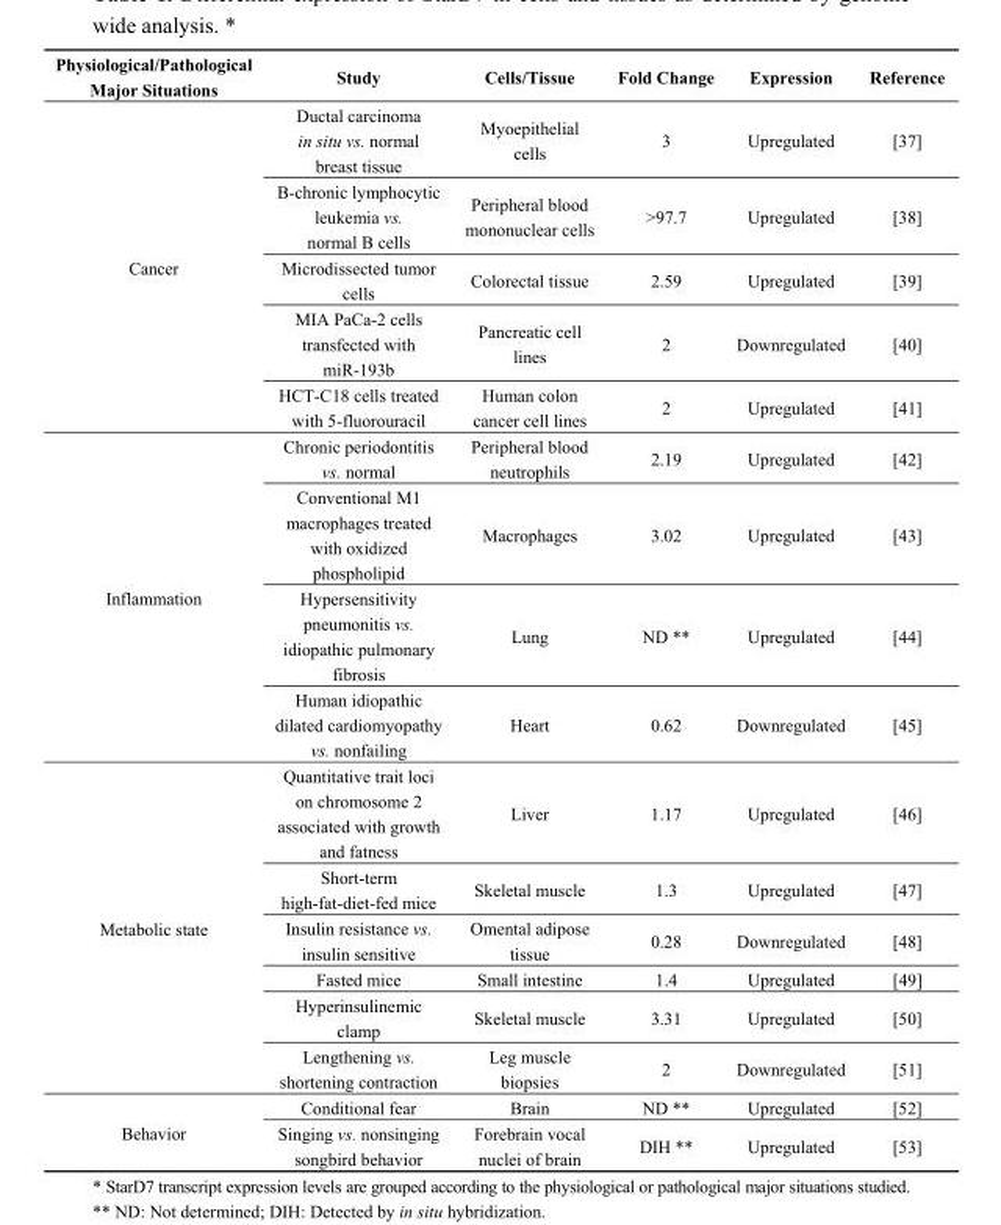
<table><thead><tr><td>Physiological/Pathological Major Situations</td><td>Study</td><td>Cells/Tissue</td><td>Fold Change</td><td>Expression</td><td>Reference</td></tr></thead><tbody><tr><td rowspan="5">Cancer</td><td>Ductal carcinoma in situ vs. normal breast tissue</td><td>Myoepithelial cells</td><td>3</td><td>Upregulated</td><td>[37]</td></tr><tr><td>B-chronic lymphocytic leukemia vs. normal B cells</td><td>Peripheral blood mononuclear cells</td><td>&gt;97.7</td><td>Upregulated</td><td>[38]</td></tr><tr><td>Microdissected tumor cells</td><td>Colorectal tissue</td><td>2.59</td><td>Upregulated</td><td>[39]</td></tr><tr><td>MIA PaCa-2 cells transfected with miR-193b</td><td>Pancreatic cell lines</td><td>2</td><td>Downregulated</td><td>[40]</td></tr><tr><td>HCT-C18 cells treated with 5-fluorouracil</td><td>Human colon cancer cell lines</td><td>2</td><td>Upregulated</td><td>[41]</td></tr><tr><td rowspan="4">Inflammation</td><td>Chronic periodontitis vs. normal</td><td>Peripheral blood neutrophils</td><td>2.19</td><td>Upregulated</td><td>[42]</td></tr><tr><td>Conventional M1 macrophages treated with oxidized phospholipid</td><td>Macrophages</td><td>3.02</td><td>Upregulated</td><td>[43]</td></tr><tr><td>Hypersensitivity pneumonitis vs. idiopathic pulmonary fibrosis</td><td>Lung</td><td>ND **</td><td>Upregulated</td><td>[44]</td></tr><tr><td>Human idiopathic dilated cardiomyopathy vs. nonfailing</td><td>Heart</td><td>0.62</td><td>Downregulated</td><td>[45]</td></tr><tr><td rowspan="6">Metabolic state</td><td>Quantitative trait loci on chromosome 2 associated with growth and fatness</td><td>Liver</td><td>1.17</td><td>Upregulated</td><td>[46]</td></tr><tr><td>Short-term high-fat-diet-fed mice</td><td>Skeletal muscle</td><td>1.3</td><td>Upregulated</td><td>[47]</td></tr><tr><td>Insulin resistance vs. insulin sensitive</td><td>Omental adipose tissue</td><td>0.28</td><td>Downregulated</td><td>[48]</td></tr><tr><td>Fasted mice</td><td>Small intestine</td><td>1.4</td><td>Upregulated</td><td>[49]</td></tr><tr><td>Hyperinsulinemic clamp</td><td>Skeletal muscle</td><td>3.31</td><td>Upregulated</td><td>[50]</td></tr><tr><td>Lengthening vs. shortening contraction</td><td>Leg muscle biopsies</td><td>2</td><td>Downregulated</td><td>[51]</td></tr><tr><td rowspan="2">Behavior</td><td>Conditional fear</td><td>Brain</td><td>ND **</td><td>Upregulated</td><td>[52]</td></tr><tr><td>Singing vs. nonsinging songbird behavior</td><td>Forebrain vocal nuclei of brain</td><td>DIH **</td><td>Upregulated</td><td>[53]</td></tr></tbody></table>